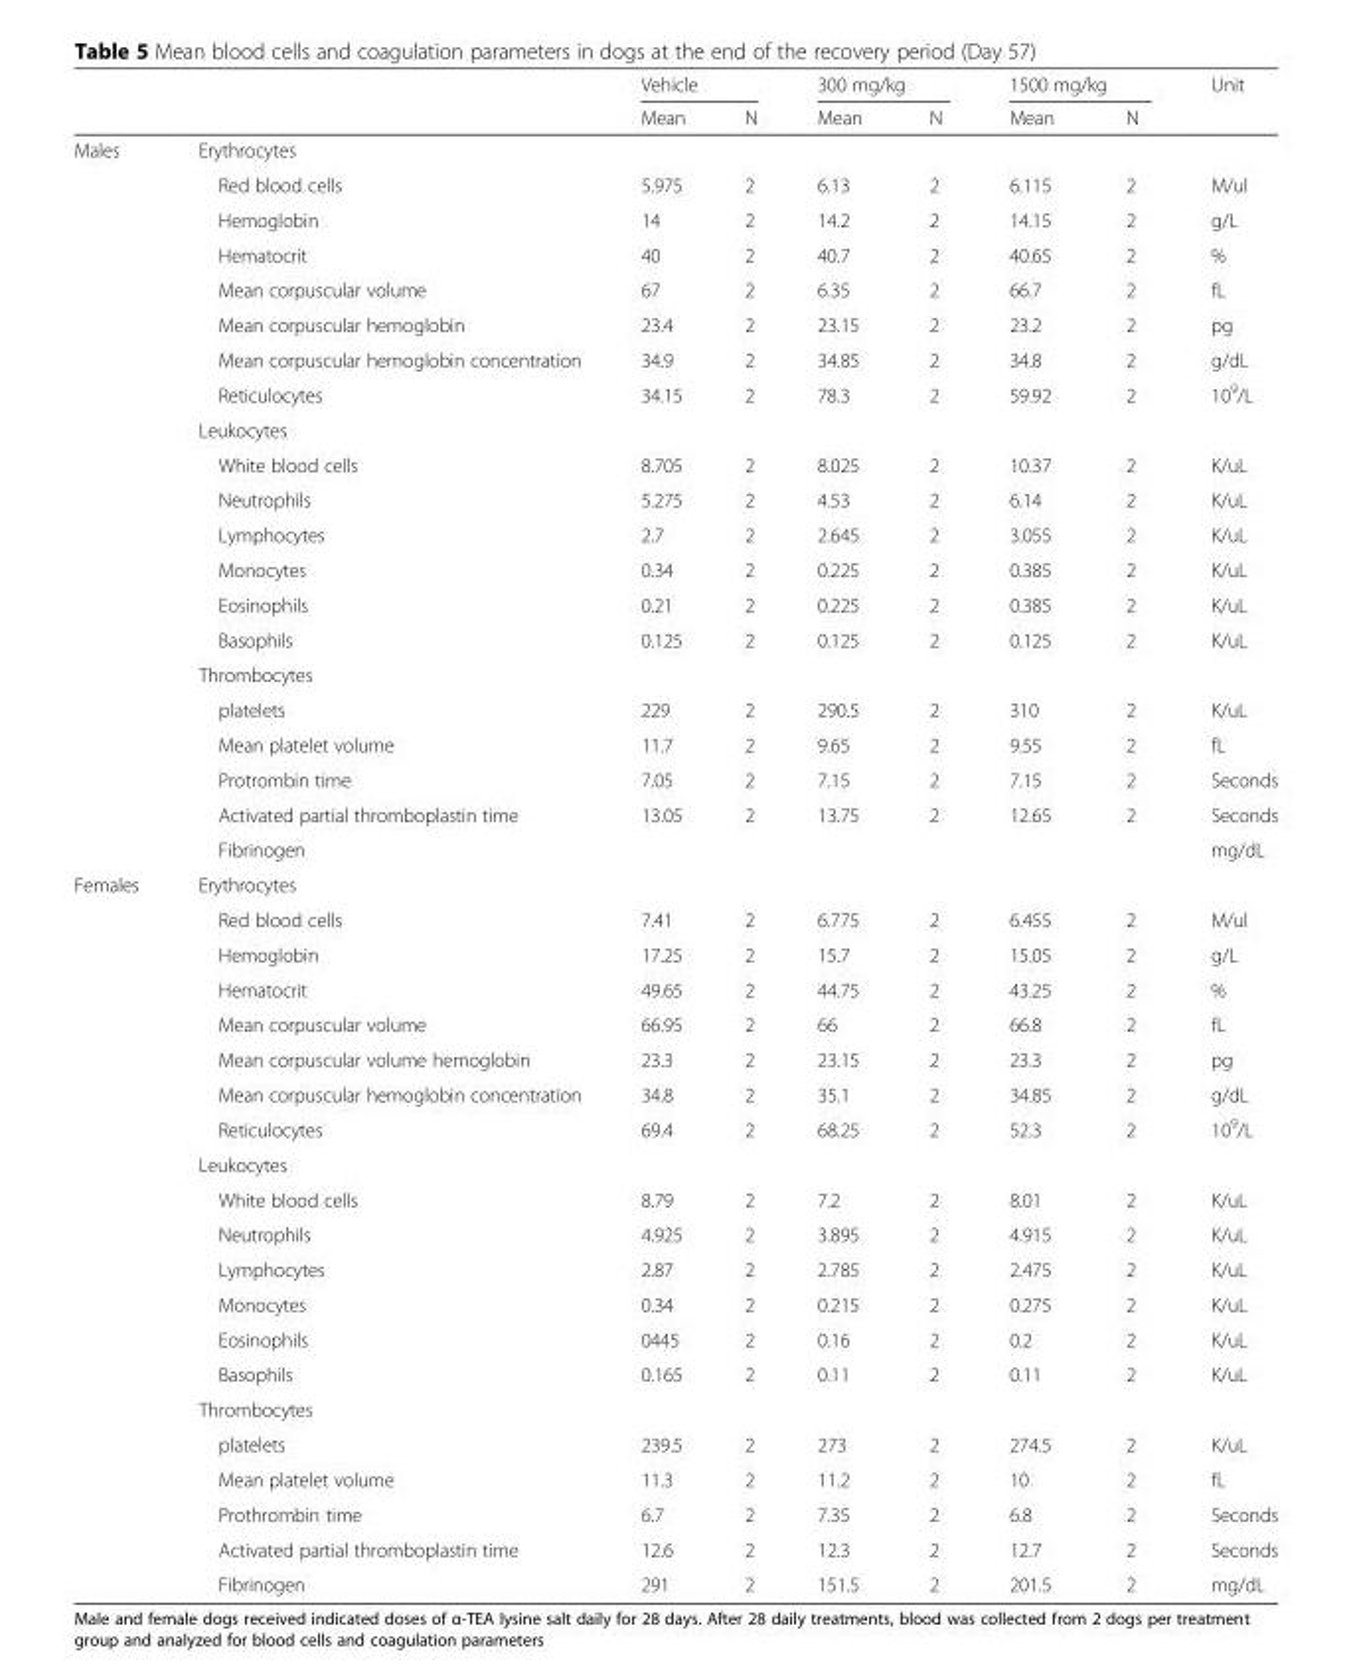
<table><thead><tr><td rowspan="2"></td><td rowspan="2"></td><td colspan="2">Vehicle</td><td colspan="2">300 mg/kg</td><td colspan="2">1500 mg/kg</td><td rowspan="2">Unit</td></tr><tr><td>Mean</td><td>N</td><td>Mean</td><td>N</td><td>Mean</td><td>N</td></tr></thead><tbody><tr><td rowspan="21">Males</td><td>Erythrocytes</td><td></td><td></td><td></td><td></td><td></td><td></td><td></td></tr><tr><td>Red blood cells</td><td>5.975</td><td>2</td><td>6.13</td><td>2</td><td>6.115</td><td>2</td><td>M/ul</td></tr><tr><td>Hemoglobin</td><td>14</td><td>2</td><td>14.2</td><td>2</td><td>14.15</td><td>2</td><td>g/L</td></tr><tr><td>Hematocrit</td><td>40</td><td>2</td><td>40.7</td><td>2</td><td>40.65</td><td>2</td><td>%</td></tr><tr><td>Mean corpuscular volume</td><td>67</td><td>2</td><td>6.35</td><td>2</td><td>66.7</td><td>2</td><td>fL</td></tr><tr><td>Mean corpuscular hemoglobin</td><td>23.4</td><td>2</td><td>23.15</td><td>2</td><td>23.2</td><td>2</td><td>pg</td></tr><tr><td>Mean corpuscular hemoglobin concentration</td><td>34.9</td><td>2</td><td>34.85</td><td>2</td><td>34.8</td><td>2</td><td>g/dL</td></tr><tr><td>Reticulocytes</td><td>34.15</td><td>2</td><td>78.3</td><td>2</td><td>59.92</td><td>2</td><td>10<sup>9</sup>/L</td></tr><tr><td>Leukocytes</td><td></td><td></td><td></td><td></td><td></td><td></td><td></td></tr><tr><td>White blood cells</td><td>8.705</td><td>2</td><td>8.025</td><td>2</td><td>10.37</td><td>2</td><td>K/uL</td></tr><tr><td>Neutrophils</td><td>5.275</td><td>2</td><td>4.53</td><td>2</td><td>6.14</td><td>2</td><td>K/uL</td></tr><tr><td>Lymphocytes</td><td>2.7</td><td>2</td><td>2.645</td><td>2</td><td>3.055</td><td>2</td><td>K/uL</td></tr><tr><td>Monocytes</td><td>0.34</td><td>2</td><td>0.225</td><td>2</td><td>0.385</td><td>2</td><td>K/uL</td></tr><tr><td>Eosinophils</td><td>0.21</td><td>2</td><td>0.225</td><td>2</td><td>0.385</td><td>2</td><td>K/uL</td></tr><tr><td>Basophils</td><td>0.125</td><td>2</td><td>0.125</td><td>2</td><td>0.125</td><td>2</td><td>K/uL</td></tr><tr><td>Thrombocytes</td><td></td><td></td><td></td><td></td><td></td><td></td><td></td></tr><tr><td>platelets</td><td>229</td><td>2</td><td>290.5</td><td>2</td><td>310</td><td>2</td><td>K/uL</td></tr><tr><td>Mean platelet volume</td><td>11.7</td><td>2</td><td>9.65</td><td>2</td><td>9.55</td><td>2</td><td>fL</td></tr><tr><td>Protrombin time</td><td>7.05</td><td>2</td><td>7.15</td><td>2</td><td>7.15</td><td>2</td><td>Seconds</td></tr><tr><td>Activated partial thromboplastin time</td><td>13.05</td><td>2</td><td>13.75</td><td>2</td><td>12.65</td><td>2</td><td>Seconds</td></tr><tr><td>Fibrinogen</td><td></td><td></td><td></td><td></td><td></td><td></td><td>mg/dL</td></tr><tr><td rowspan="21">Females</td><td>Erythrocytes</td><td></td><td></td><td></td><td></td><td></td><td></td><td></td></tr><tr><td>Red blood cells</td><td>7.41</td><td>2</td><td>6.775</td><td>2</td><td>6.455</td><td>2</td><td>M/ul</td></tr><tr><td>Hemoglobin</td><td>17.25</td><td>2</td><td>15.7</td><td>2</td><td>15.05</td><td>2</td><td>g/L</td></tr><tr><td>Hematocrit</td><td>49.65</td><td>2</td><td>44.75</td><td>2</td><td>43.25</td><td>2</td><td>%</td></tr><tr><td>Mean corpuscular volume</td><td>66.95</td><td>2</td><td>66</td><td>2</td><td>66.8</td><td>2</td><td>fL</td></tr><tr><td>Mean corpuscular volume hemoglobin</td><td>23.3</td><td>2</td><td>23.15</td><td>2</td><td>23.3</td><td>2</td><td>pg</td></tr><tr><td>Mean corpuscular hemoglobin concentration</td><td>34.8</td><td>2</td><td>35.1</td><td>2</td><td>34.85</td><td>2</td><td>g/dL</td></tr><tr><td>Reticulocytes</td><td>69.4</td><td>2</td><td>68.25</td><td>2</td><td>52.3</td><td>2</td><td>10<sup>9</sup>/L</td></tr><tr><td>Leukocytes</td><td></td><td></td><td></td><td></td><td></td><td></td><td></td></tr><tr><td>White blood cells</td><td>8.79</td><td>2</td><td>7.2</td><td>2</td><td>8.01</td><td>2</td><td>K/uL</td></tr><tr><td>Neutrophils</td><td>4.925</td><td>2</td><td>3.895</td><td>2</td><td>4.915</td><td>2</td><td>K/uL</td></tr><tr><td>Lymphocytes</td><td>2.87</td><td>2</td><td>2.785</td><td>2</td><td>2.475</td><td>2</td><td>K/uL</td></tr><tr><td>Monocytes</td><td>0.34</td><td>2</td><td>0.215</td><td>2</td><td>0.275</td><td>2</td><td>K/uL</td></tr><tr><td>Eosinophils</td><td>0445</td><td>2</td><td>0.16</td><td>2</td><td>0.2</td><td>2</td><td>K/uL</td></tr><tr><td>Basophils</td><td>0.165</td><td>2</td><td>0.11</td><td>2</td><td>0.11</td><td>2</td><td>K/uL</td></tr><tr><td>Thrombocytes</td><td></td><td></td><td></td><td></td><td></td><td></td><td></td></tr><tr><td>platelets</td><td>239.5</td><td>2</td><td>273</td><td>2</td><td>274.5</td><td>2</td><td>K/uL</td></tr><tr><td>Mean platelet volume</td><td>11.3</td><td>2</td><td>11.2</td><td>2</td><td>10</td><td>2</td><td>fL</td></tr><tr><td>Prothrombin time</td><td>6.7</td><td>2</td><td>7.35</td><td>2</td><td>6.8</td><td>2</td><td>Seconds</td></tr><tr><td>Activated partial thromboplastin time</td><td>12.6</td><td>2</td><td>12.3</td><td>2</td><td>12.7</td><td>2</td><td>Seconds</td></tr><tr><td>Fibrinogen</td><td>291</td><td>2</td><td>151.5</td><td>2</td><td>201.5</td><td>2</td><td>mg/dL</td></tr></tbody></table>